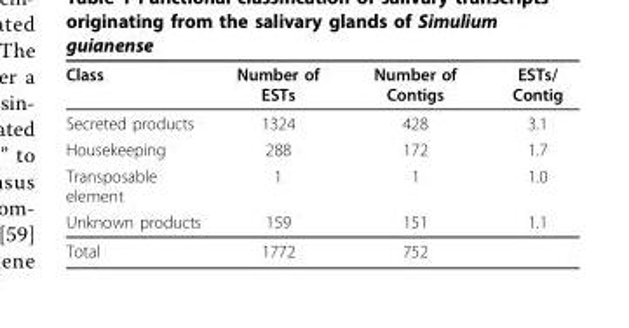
<table><thead><tr><td>Class</td><td>Number of ESTs</td><td>Number of Contigs</td><td>ESTs/ Contig</td></tr></thead><tbody><tr><td>Secreted products</td><td>1324</td><td>428</td><td>3.1</td></tr><tr><td>Housekeeping</td><td>288</td><td>172</td><td>1.7</td></tr><tr><td>Transposable element</td><td>1</td><td>1</td><td>1.0</td></tr><tr><td>Unknown products</td><td>159</td><td>151</td><td>1.1</td></tr><tr><td>Total</td><td>1772</td><td>752</td><td></td></tr></tbody></table>